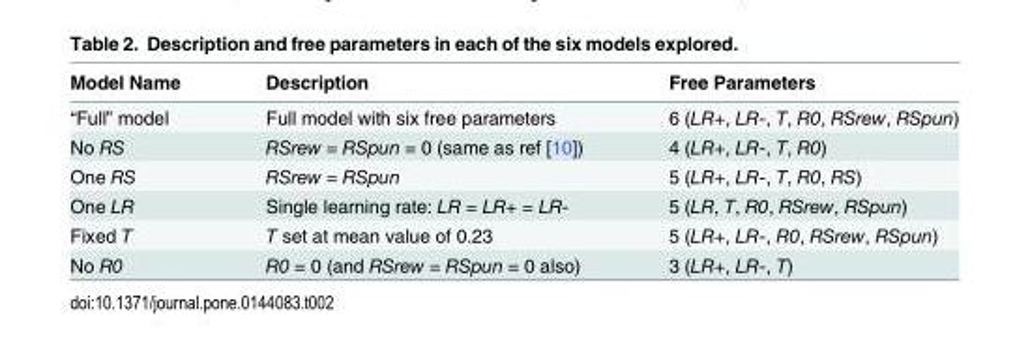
<table><thead><tr><td>Model Name</td><td>Description</td><td>Free Parameters</td></tr></thead><tbody><tr><td>“Full” model</td><td>Full model with six free parameters</td><td>6 (LR+, LR-, T, R0, RSrew, RSpun)</td></tr><tr><td>No RS</td><td>RSrew = RSpun = 0 (same as ref [10])</td><td>4 (LR+, LR-, T, R0)</td></tr><tr><td>One RS</td><td>RSrew = RSpun</td><td>5 (LR+, LR-, T, R0, RS)</td></tr><tr><td>One LR</td><td>Single learning rate: LR = LR+ = LR-</td><td>5 (LR, T, R0, RSrew, RSpun)</td></tr><tr><td>Fixed T</td><td>T set at mean value of 0.23</td><td>5 (LR+, LR-, R0, RSrew, RSpun)</td></tr><tr><td>No R0</td><td>R0 = 0 (and RSrew = RSpun = 0 also)</td><td>3 (LR+, LR-, T)</td></tr></tbody></table>